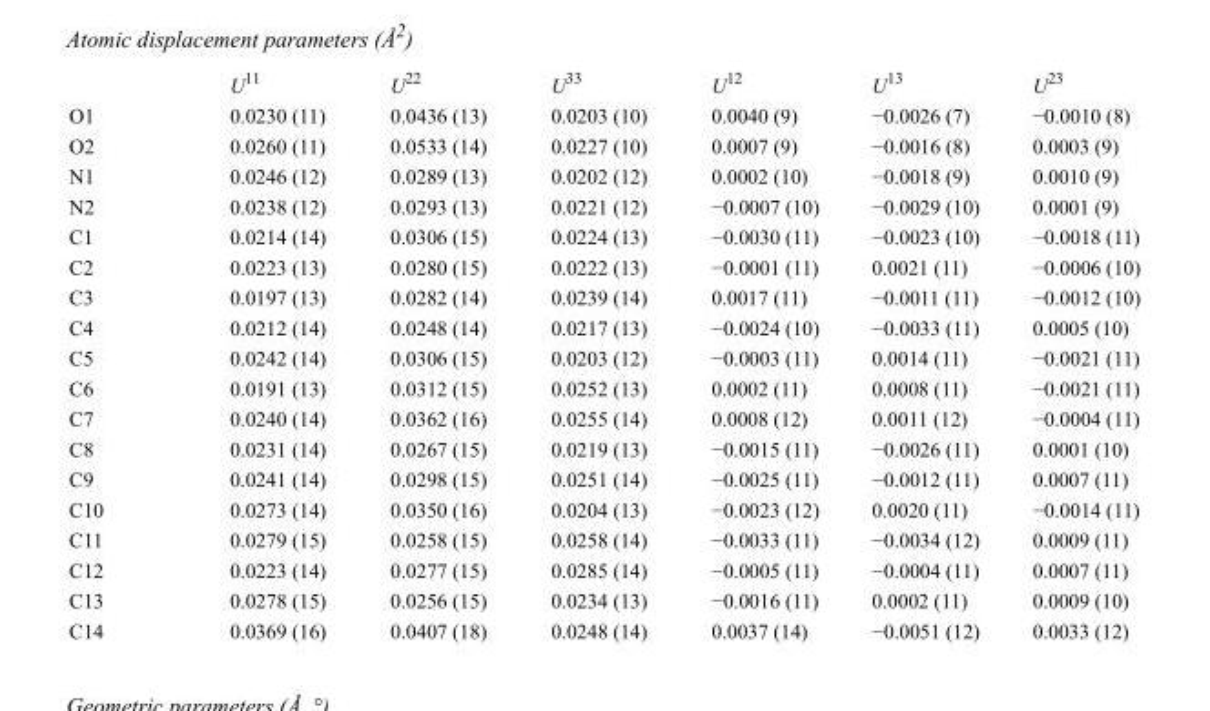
<table><thead><tr><td></td><td>U<sup>11</sup></td><td>U<sup>22</sup></td><td>U<sup>33</sup></td><td>U<sup>12</sup></td><td>U<sup>13</sup></td><td>U<sup>23</sup></td></tr></thead><tbody><tr><td>O1</td><td>0.0230 (11)</td><td>0.0436 (13)</td><td>0.0203 (10)</td><td>0.0040 (9)</td><td>−0.0026 (7)</td><td>−0.0010 (8)</td></tr><tr><td>O2</td><td>0.0260 (11)</td><td>0.0533 (14)</td><td>0.0227 (10)</td><td>0.0007 (9)</td><td>−0.0016 (8)</td><td>0.0003 (9)</td></tr><tr><td>N1</td><td>0.0246 (12)</td><td>0.0289 (13)</td><td>0.0202 (12)</td><td>0.0002 (10)</td><td>−0.0018 (9)</td><td>0.0010 (9)</td></tr><tr><td>N2</td><td>0.0238 (12)</td><td>0.0293 (13)</td><td>0.0221 (12)</td><td>−0.0007 (10)</td><td>−0.0029 (10)</td><td>0.0001 (9)</td></tr><tr><td>C1</td><td>0.0214 (14)</td><td>0.0306 (15)</td><td>0.0224 (13)</td><td>−0.0030 (11)</td><td>−0.0023 (10)</td><td>−0.0018 (11)</td></tr><tr><td>C2</td><td>0.0223 (13)</td><td>0.0280 (15)</td><td>0.0222 (13)</td><td>−0.0001 (11)</td><td>0.0021 (11)</td><td>−0.0006 (10)</td></tr><tr><td>C3</td><td>0.0197 (13)</td><td>0.0282 (14)</td><td>0.0239 (14)</td><td>0.0017 (11)</td><td>−0.0011 (11)</td><td>−0.0012 (10)</td></tr><tr><td>C4</td><td>0.0212 (14)</td><td>0.0248 (14)</td><td>0.0217 (13)</td><td>−0.0024 (10)</td><td>−0.0033 (11)</td><td>0.0005 (10)</td></tr><tr><td>C5</td><td>0.0242 (14)</td><td>0.0306 (15)</td><td>0.0203 (12)</td><td>−0.0003 (11)</td><td>0.0014 (11)</td><td>−0.0021 (11)</td></tr><tr><td>C6</td><td>0.0191 (13)</td><td>0.0312 (15)</td><td>0.0252 (13)</td><td>0.0002 (11)</td><td>0.0008 (11)</td><td>−0.0021 (11)</td></tr><tr><td>C7</td><td>0.0240 (14)</td><td>0.0362 (16)</td><td>0.0255 (14)</td><td>0.0008 (12)</td><td>0.0011 (12)</td><td>−0.0004 (11)</td></tr><tr><td>C8</td><td>0.0231 (14)</td><td>0.0267 (15)</td><td>0.0219 (13)</td><td>−0.0015 (11)</td><td>−0.0026 (11)</td><td>0.0001 (10)</td></tr><tr><td>C9</td><td>0.0241 (14)</td><td>0.0298 (15)</td><td>0.0251 (14)</td><td>−0.0025 (11)</td><td>−0.0012 (11)</td><td>0.0007 (11)</td></tr><tr><td>C10</td><td>0.0273 (14)</td><td>0.0350 (16)</td><td>0.0204 (13)</td><td>−0.0023 (12)</td><td>0.0020 (11)</td><td>−0.0014 (11)</td></tr><tr><td>C11</td><td>0.0279 (15)</td><td>0.0258 (15)</td><td>0.0258 (14)</td><td>−0.0033 (11)</td><td>−0.0034 (12)</td><td>0.0009 (11)</td></tr><tr><td>C12</td><td>0.0223 (14)</td><td>0.0277 (15)</td><td>0.0285 (14)</td><td>−0.0005 (11)</td><td>−0.0004 (11)</td><td>0.0007 (11)</td></tr><tr><td>C13</td><td>0.0278 (15)</td><td>0.0256 (15)</td><td>0.0234 (13)</td><td>−0.0016 (11)</td><td>0.0002 (11)</td><td>0.0009 (10)</td></tr><tr><td>C14</td><td>0.0369 (16)</td><td>0.0407 (18)</td><td>0.0248 (14)</td><td>0.0037 (14)</td><td>−0.0051 (12)</td><td>0.0033 (12)</td></tr></tbody></table>